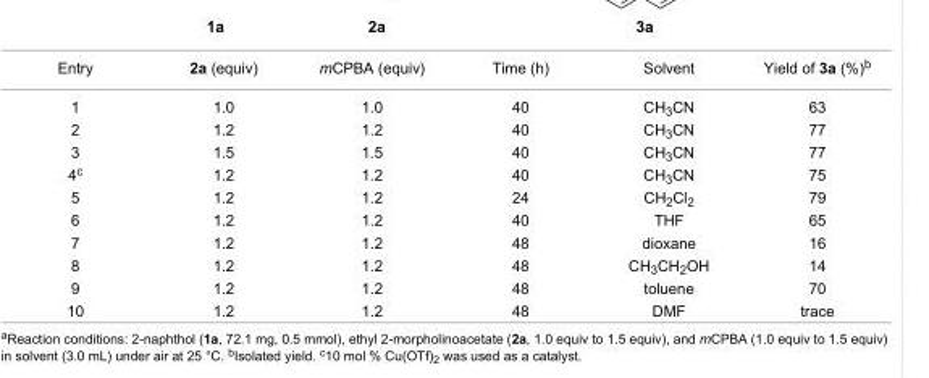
<table><tbody><tr><td>Entry</td><td>2a (equiv)</td><td>mCPBA (equiv)</td><td>Time (h)</td><td>Solvent</td><td>Yield of 3a (%)<sup>b</sup></td></tr><tr><td>1</td><td>1.0</td><td>1.0</td><td>40</td><td>CH<sub>3</sub>CN</td><td>63</td></tr><tr><td>2</td><td>1.2</td><td>1.2</td><td>40</td><td>CH<sub>3</sub>CN</td><td>77</td></tr><tr><td>3</td><td>1.5</td><td>1.5</td><td>40</td><td>CH<sub>3</sub>CN</td><td>77</td></tr><tr><td>4<sup>c</sup></td><td>1.2</td><td>1.2</td><td>40</td><td>CH<sub>3</sub>CN</td><td>75</td></tr><tr><td>5</td><td>1.2</td><td>1.2</td><td>24</td><td>CH<sub>2</sub>Cl<sub>2</sub></td><td>79</td></tr><tr><td>6</td><td>1.2</td><td>1.2</td><td>40</td><td>THF</td><td>65</td></tr><tr><td>7</td><td>1.2</td><td>1.2</td><td>48</td><td>dioxane</td><td>16</td></tr><tr><td>8</td><td>1.2</td><td>1.2</td><td>48</td><td>CH<sub>3</sub>CH<sub>2</sub>OH</td><td>14</td></tr><tr><td>9</td><td>1.2</td><td>1.2</td><td>48</td><td>toluene</td><td>70</td></tr><tr><td>10</td><td>1.2</td><td>1.2</td><td>48</td><td>DMF</td><td>trace</td></tr></tbody></table>